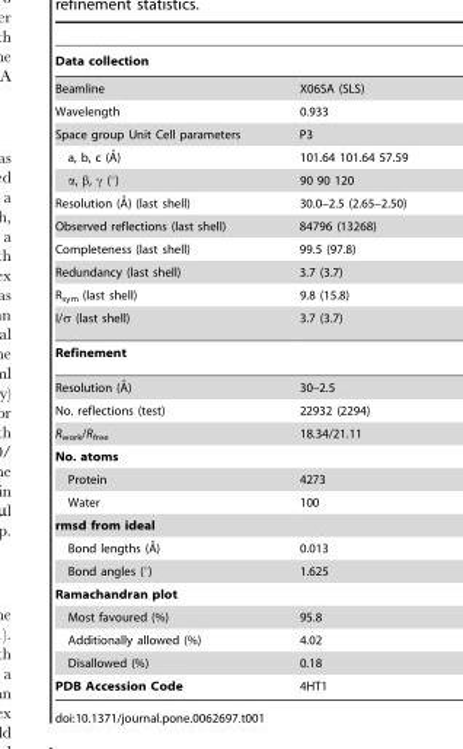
<table><thead><tr><td>Data collection</td><td></td></tr></thead><tbody><tr><td>Beamline</td><td>X06SA (SLS)</td></tr><tr><td>Wavelength</td><td>0.933</td></tr><tr><td>Space group Unit Cell parameters</td><td>P3</td></tr><tr><td>a, b, c (A˚)</td><td>101.64 101.64 57.59</td></tr><tr><td>α, β, γ (°)</td><td>90 90 120</td></tr><tr><td>Resolution (A˚) (last shell)</td><td>30.0–2.5 (2.65–2.50)</td></tr><tr><td>Observed reflections (last shell)</td><td>84796 (13268)</td></tr><tr><td>Completeness (last shell)</td><td>99.5 (97.8)</td></tr><tr><td>Redundancy (last shell)</td><td>3.7 (3.7)</td></tr><tr><td>R<sub>sym</sub> (last shell)</td><td>9.8 (15.8)</td></tr><tr><td>I/σ (last shell)</td><td>3.7 (3.7)</td></tr><tr><td colspan="2">Refinement</td></tr><tr><td>Resolution (A˚)</td><td>30–2.5</td></tr><tr><td>No. reflections (test)</td><td>22932 (2294)</td></tr><tr><td>R<sub>work</sub>/R<sub>free</sub></td><td>18.34/21.11</td></tr><tr><td colspan="2">No. atoms</td></tr><tr><td>Protein</td><td>4273</td></tr><tr><td>Water</td><td>100</td></tr><tr><td colspan="2">rmsd from ideal</td></tr><tr><td>Bond lengths (A˚)</td><td>0.013</td></tr><tr><td>Bond angles (°)</td><td>1.625</td></tr><tr><td colspan="2">Ramachandran plot</td></tr><tr><td>Most favoured (%)</td><td>95.8</td></tr><tr><td>Additionally allowed (%)</td><td>4.02</td></tr><tr><td>Disallowed (%)</td><td>0.18</td></tr><tr><td>PDB Accession Code</td><td>4HT1</td></tr></tbody></table>